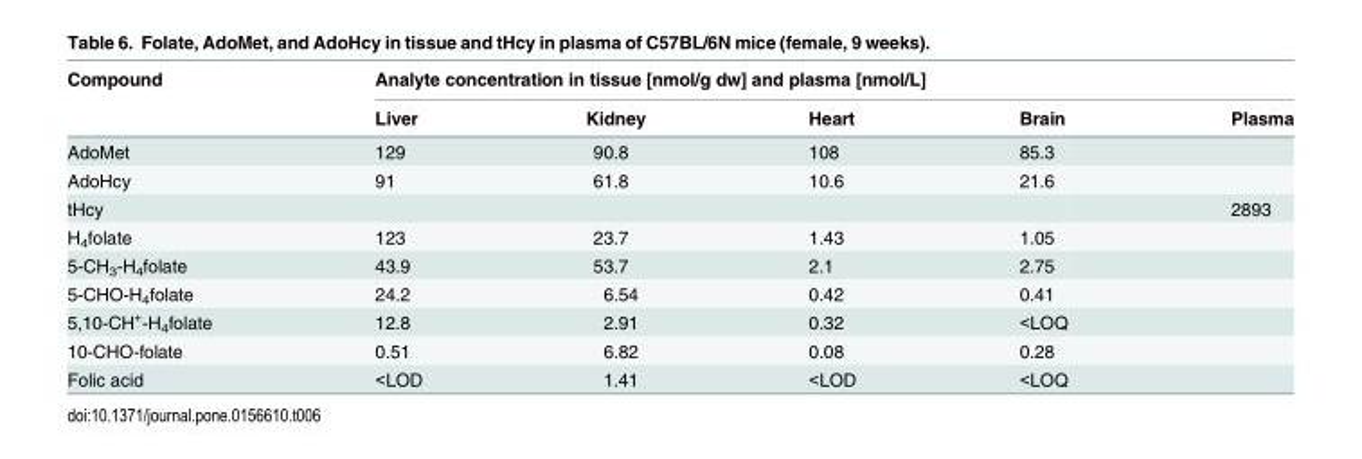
<table><thead><tr><td rowspan="2">Compound</td><td colspan="5">Analyte concentration in tissue [nmol/g dw] and plasma [nmol/L]</td></tr><tr><td>Liver</td><td>Kidney</td><td>Heart</td><td>Brain</td><td>Plasma</td></tr></thead><tbody><tr><td>AdoMet</td><td>129</td><td>90.8</td><td>108</td><td>85.3</td><td></td></tr><tr><td>AdoHcy</td><td>91</td><td>61.8</td><td>10.6</td><td>21.6</td><td></td></tr><tr><td>tHcy</td><td></td><td></td><td></td><td></td><td>2893</td></tr><tr><td>H<sub>4</sub>folate</td><td>123</td><td>23.7</td><td>1.43</td><td>1.05</td><td></td></tr><tr><td>5-CH<sub>3</sub>-H<sub>4</sub>folate</td><td>43.9</td><td>53.7</td><td>2.1</td><td>2.75</td><td></td></tr><tr><td>5-CHO-H<sub>4</sub>folate</td><td>24.2</td><td>6.54</td><td>0.42</td><td>0.41</td><td></td></tr><tr><td>5,10-CH<sup>+</sup>-H<sub>4</sub>folate</td><td>12.8</td><td>2.91</td><td>0.32</td><td>&lt;LOQ</td><td></td></tr><tr><td>10-CHO-folate</td><td>0.51</td><td>6.82</td><td>0.08</td><td>0.28</td><td></td></tr><tr><td>Folic acid</td><td>&lt;LOD</td><td>1.41</td><td>&lt;LOD</td><td>&lt;LOQ</td><td></td></tr></tbody></table>